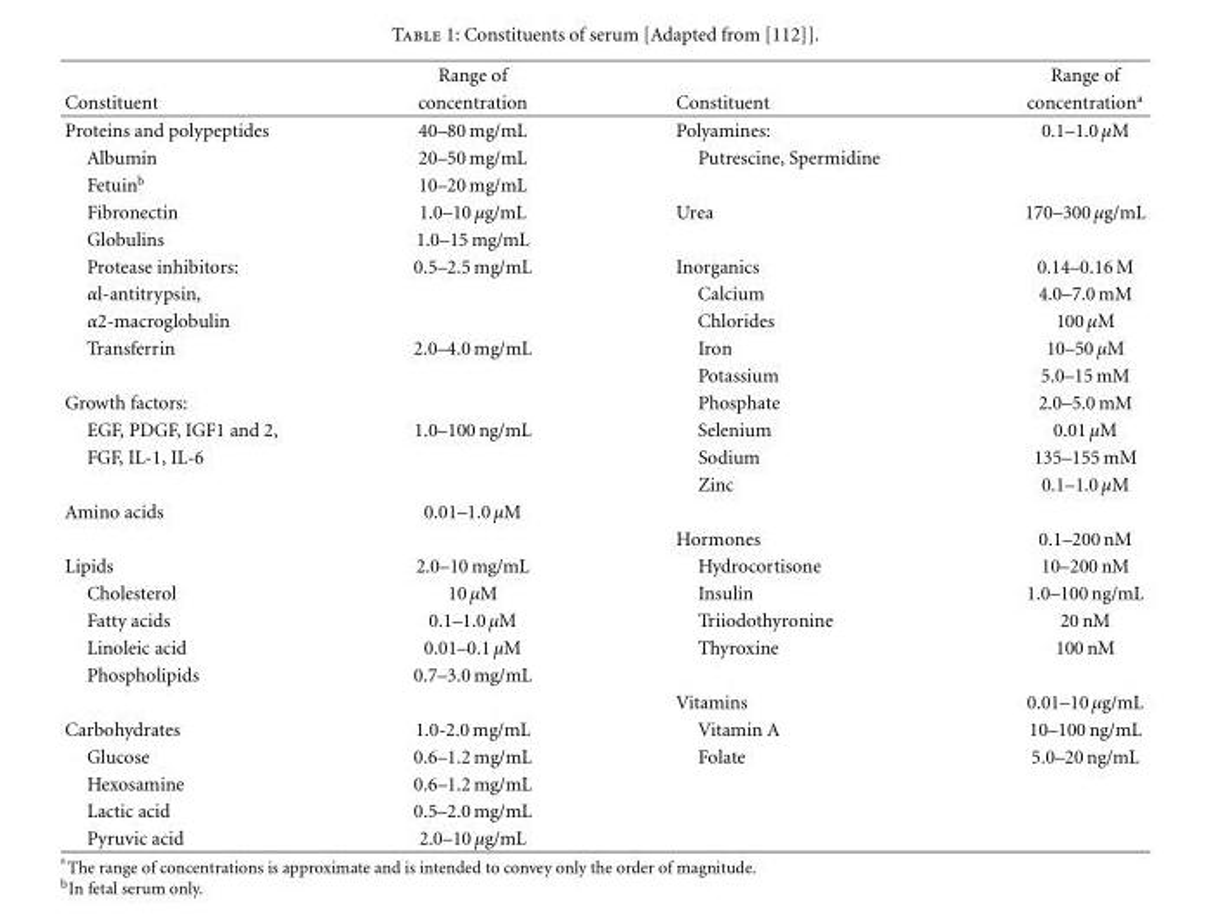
<table><thead><tr><td rowspan="2">Constituent</td><td rowspan="2">Range of concentration</td><td rowspan="2">Constituent</td><td rowspan="2">Range of concentration<sup>a</sup></td></tr><tr></tr></thead><tbody><tr><td>Proteins and polypeptides</td><td>40–80 mg/mL</td><td>Polyamines:</td><td>0.1–1.0 μM</td></tr><tr><td>Albumin</td><td>20–50 mg/mL</td><td>Putrescine, Spermidine</td><td></td></tr><tr><td>Fetuin<sup>b</sup></td><td>10–20 mg/mL</td><td></td><td></td></tr><tr><td>Fibronectin</td><td>1.0–10 μg/mL</td><td>Urea</td><td>170–300 μg/mL</td></tr><tr><td>Globulins</td><td>1.0–15 mg/mL</td><td></td><td></td></tr><tr><td>Protease inhibitors:</td><td>0.5–2.5 mg/mL</td><td>Inorganics</td><td>0.14–0.16 M</td></tr><tr><td>αl-antitrypsin,</td><td></td><td>Calcium</td><td>4.0–7.0 mM</td></tr><tr><td>α2-macroglobulin</td><td></td><td>Chlorides</td><td>100 μM</td></tr><tr><td rowspan="2">Transferrin</td><td>2.0–4.0 mg/mL</td><td>Iron</td><td>10–50 μM</td></tr><tr><td></td><td>Potassium</td><td>5.0–15 mM</td></tr><tr><td>Growth factors:</td><td></td><td>Phosphate</td><td>2.0–5.0 mM</td></tr><tr><td>EGF, PDGF, IGF1 and 2,</td><td>1.0–100 ng/mL</td><td>Selenium</td><td>0.01 μM</td></tr><tr><td rowspan="2">FGF, IL-1, IL-6</td><td></td><td>Sodium</td><td>135–155 mM</td></tr><tr><td></td><td>Zinc</td><td>0.1–1.0 μM</td></tr><tr><td rowspan="2">Amino acids</td><td>0.01–1.0 μM</td><td></td><td></td></tr><tr><td></td><td>Hormones</td><td>0.1–200 nM</td></tr><tr><td>Lipids</td><td>2.0–10 mg/mL</td><td>Hydrocortisone</td><td>10–200 nM</td></tr><tr><td>Cholesterol</td><td>10 μM</td><td>Insulin</td><td>1.0–100 ng/mL</td></tr><tr><td>Fatty acids</td><td>0.1–1.0 μM</td><td>Triiodothyronine</td><td>20 nM</td></tr><tr><td>Linoleic acid</td><td>0.01–0.1 μM</td><td>Thyroxine</td><td>100 nM</td></tr><tr><td rowspan="2">Phospholipids</td><td>0.7–3.0 mg/mL</td><td></td><td></td></tr><tr><td></td><td>Vitamins</td><td>0.01–10 μg/mL</td></tr><tr><td>Carbohydrates</td><td>1.0-2.0 mg/mL</td><td>Vitamin A</td><td>10–100 ng/mL</td></tr><tr><td>Glucose</td><td>0.6–1.2 mg/mL</td><td>Folate</td><td>5.0–20 ng/mL</td></tr><tr><td>Hexosamine</td><td>0.6–1.2 mg/mL</td><td></td><td></td></tr><tr><td>Lactic acid</td><td>0.5–2.0 mg/mL</td><td></td><td></td></tr><tr><td>Pyruvic acid</td><td>2.0–10 μg/mL</td><td></td><td></td></tr></tbody></table>